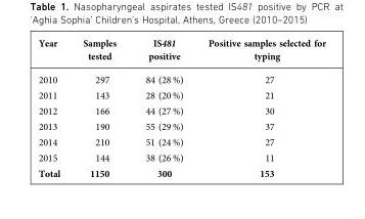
<table><thead><tr><td>Year</td><td>Samples tested</td><td>IS481 positive</td><td>Positive samples selected for typing</td></tr></thead><tbody><tr><td>2010</td><td>297</td><td>84 (28 %)</td><td>27</td></tr><tr><td>2011</td><td>143</td><td>28 (20 %)</td><td>21</td></tr><tr><td>2012</td><td>166</td><td>44 (27 %)</td><td>30</td></tr><tr><td>2013</td><td>190</td><td>55 (29 %)</td><td>37</td></tr><tr><td>2014</td><td>210</td><td>51 (24 %)</td><td>27</td></tr><tr><td>2015</td><td>144</td><td>38 (26 %)</td><td>11</td></tr><tr><td>Total</td><td>1150</td><td>300</td><td>153</td></tr></tbody></table>